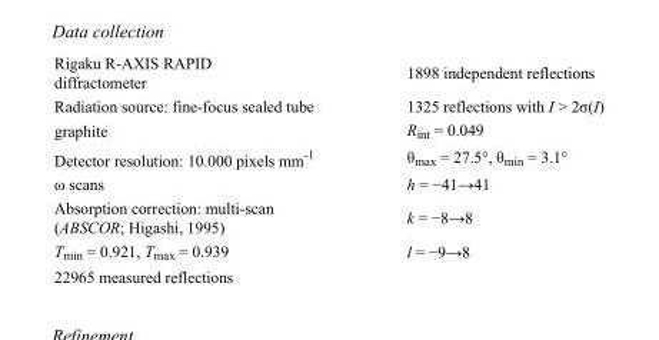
<table><tbody><tr><td>Rigaku R-AXIS RAPID diffractometer</td><td>1898 independent reflections</td></tr><tr><td>Radiation source: fine-focus sealed tube</td><td>1325 reflections with I &gt; 2σ(I)</td></tr><tr><td>graphite</td><td>R<sub>int</sub> = 0.049</td></tr><tr><td>Detector resolution: 10.000 pixels mm<sup>-1</sup></td><td>θ<sub>max</sub> = 27.5°, θ<sub>min</sub> = 3.1°</td></tr><tr><td>ω scans</td><td>h = −41→41</td></tr><tr><td>Absorption correction: multi-scan (ABSCOR; Higashi, 1995)</td><td>k = −8→8</td></tr><tr><td>T<sub>min</sub> = 0.921, T<sub>max</sub> = 0.939</td><td>l = −9→8</td></tr><tr><td>22965 measured reflections</td><td></td></tr></tbody></table>